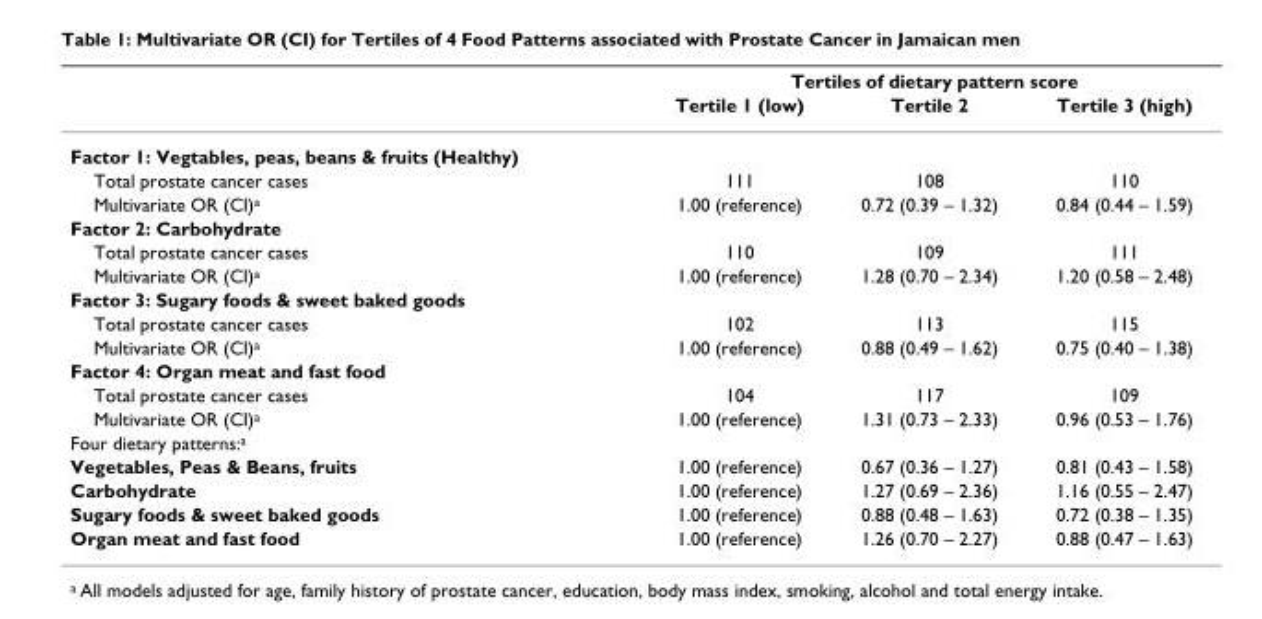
<table><thead><tr><td rowspan="2"></td><td colspan="3">Tertiles of dietary pattern score</td></tr><tr><td>Tertile 1 (low)</td><td>Tertile 2</td><td>Tertile 3 (high)</td></tr></thead><tbody><tr><td colspan="4">Factor 1: Vegtables, peas, beans &amp; fruits (Healthy)</td></tr><tr><td>Total prostate cancer cases</td><td>111</td><td>108</td><td>110</td></tr><tr><td>Multivariate OR (CI)<sup>a</sup></td><td>1.00 (reference)</td><td>0.72 (0.39 – 1.32)</td><td>0.84 (0.44 – 1.59)</td></tr><tr><td colspan="4">Factor 2: Carbohydrate</td></tr><tr><td>Total prostate cancer cases</td><td>110</td><td>109</td><td>111</td></tr><tr><td>Multivariate OR (CI)<sup>a</sup></td><td>1.00 (reference)</td><td>1.28 (0.70 – 2.34)</td><td>1.20 (0.58 – 2.48)</td></tr><tr><td colspan="4">Factor 3: Sugary foods &amp; sweet baked goods</td></tr><tr><td>Total prostate cancer cases</td><td>102</td><td>113</td><td>115</td></tr><tr><td>Multivariate OR (CI)<sup>a</sup></td><td>1.00 (reference)</td><td>0.88 (0.49 – 1.62)</td><td>0.75 (0.40 – 1.38)</td></tr><tr><td colspan="4">Factor 4: Organ meat and fast food</td></tr><tr><td>Total prostate cancer cases</td><td>104</td><td>117</td><td>109</td></tr><tr><td>Multivariate OR (CI)<sup>a</sup></td><td>1.00 (reference)</td><td>1.31 (0.73 – 2.33)</td><td>0.96 (0.53 – 1.76)</td></tr><tr><td colspan="4">Four dietary patterns:<sup>a</sup></td></tr><tr><td>Vegetables, Peas &amp; Beans, fruits</td><td>1.00 (reference)</td><td>0.67 (0.36 – 1.27)</td><td>0.81 (0.43 – 1.58)</td></tr><tr><td>Carbohydrate</td><td>1.00 (reference)</td><td>1.27 (0.69 – 2.36)</td><td>1.16 (0.55 – 2.47)</td></tr><tr><td>Sugary foods &amp; sweet baked goods</td><td>1.00 (reference)</td><td>0.88 (0.48 – 1.63)</td><td>0.72 (0.38 – 1.35)</td></tr><tr><td>Organ meat and fast food</td><td>1.00 (reference)</td><td>1.26 (0.70 – 2.27)</td><td>0.88 (0.47 – 1.63)</td></tr></tbody></table>